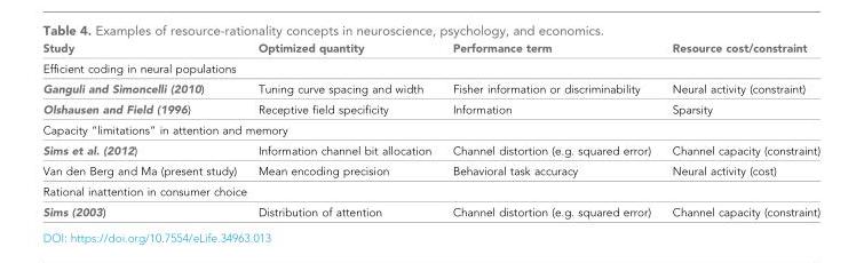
<table><thead><tr><td>Study</td><td>Optimized quantity</td><td>Performance term</td><td>Resource cost/constraint</td></tr></thead><tbody><tr><td colspan="4">Efficient coding in neural populations</td></tr><tr><td>Ganguli and Simoncelli (2010)</td><td>Tuning curve spacing and width</td><td>Fisher information or discriminability</td><td>Neural activity (constraint)</td></tr><tr><td>Olshausen and Field (1996)</td><td>Receptive field specificity</td><td>Information</td><td>Sparsity</td></tr><tr><td colspan="4">Capacity “limitations” in attention and memory</td></tr><tr><td>Sims et al. (2012)</td><td>Information channel bit allocation</td><td>Channel distortion (e.g. squared error)</td><td>Channel capacity (constraint)</td></tr><tr><td>Van den Berg and Ma (present study)</td><td>Mean encoding precision</td><td>Behavioral task accuracy</td><td>Neural activity (cost)</td></tr><tr><td colspan="4">Rational inattention in consumer choice</td></tr><tr><td>Sims (2003)</td><td>Distribution of attention</td><td>Channel distortion (e.g. squared error)</td><td>Channel capacity (constraint)</td></tr></tbody></table>